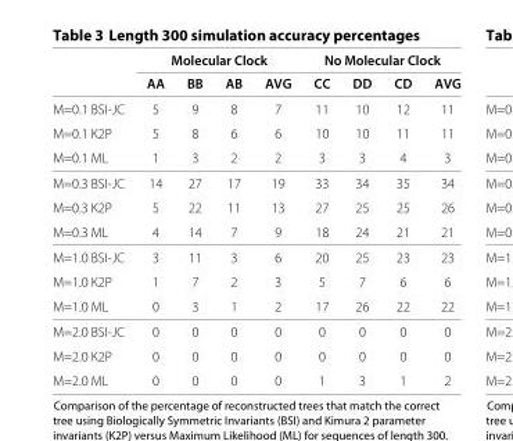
<table><thead><tr><td rowspan="2"></td><td colspan="4">Molecular Clock</td><td colspan="4">No Molecular Clock</td></tr><tr><td>AA</td><td>BB</td><td>AB</td><td>AVG</td><td>CC</td><td>DD</td><td>CD</td><td>AVG</td></tr></thead><tbody><tr><td>M=0.1 BSI-JC</td><td>5</td><td>9</td><td>8</td><td>7</td><td>11</td><td>10</td><td>12</td><td>11</td></tr><tr><td>M=0.1 K2P</td><td>5</td><td>8</td><td>6</td><td>6</td><td>10</td><td>10</td><td>11</td><td>11</td></tr><tr><td>M=0.1 ML</td><td>1</td><td>3</td><td>2</td><td>2</td><td>3</td><td>3</td><td>4</td><td>3</td></tr><tr><td>M=0.3 BSI-JC</td><td>14</td><td>27</td><td>17</td><td>19</td><td>33</td><td>34</td><td>35</td><td>34</td></tr><tr><td>M=0.3 K2P</td><td>5</td><td>22</td><td>11</td><td>13</td><td>27</td><td>25</td><td>25</td><td>26</td></tr><tr><td>M=0.3 ML</td><td>4</td><td>14</td><td>7</td><td>9</td><td>18</td><td>24</td><td>21</td><td>21</td></tr><tr><td>M=1.0 BSI-JC</td><td>3</td><td>11</td><td>3</td><td>6</td><td>20</td><td>25</td><td>23</td><td>23</td></tr><tr><td>M=1.0 K2P</td><td>1</td><td>7</td><td>2</td><td>3</td><td>5</td><td>7</td><td>6</td><td>6</td></tr><tr><td>M=1.0 ML</td><td>0</td><td>3</td><td>1</td><td>2</td><td>17</td><td>26</td><td>22</td><td>22</td></tr><tr><td>M=2.0 BSI-JC</td><td>0</td><td>0</td><td>0</td><td>0</td><td>0</td><td>0</td><td>0</td><td>0</td></tr><tr><td>M=2.0 K2P</td><td>0</td><td>0</td><td>0</td><td>0</td><td>0</td><td>0</td><td>0</td><td>0</td></tr><tr><td>M=2.0 ML</td><td>0</td><td>0</td><td>0</td><td>0</td><td>1</td><td>3</td><td>1</td><td>2</td></tr></tbody></table>